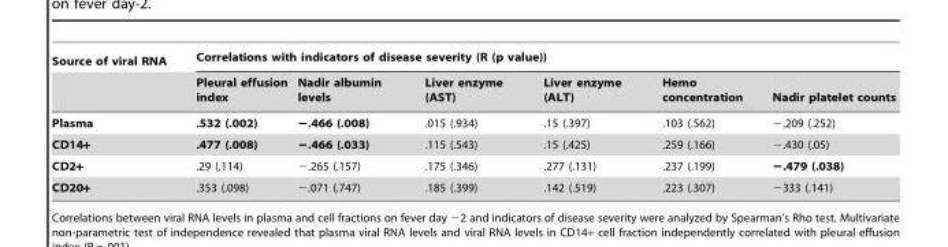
<table><thead><tr><td rowspan="2">Source of viral RNA</td><td colspan="6">Correlations with indicators of disease severity (R (p value))</td></tr><tr><td>Pleural effusion index</td><td>Nadir albumin levels</td><td>Liver enzyme (AST)</td><td>Liver enzyme (ALT)</td><td>Hemo concentration</td><td>Nadir platelet counts</td></tr></thead><tbody><tr><td>Plasma</td><td>.532 (.002)</td><td>−.466 (.008)</td><td>.015 (.934)</td><td>.15 (.397)</td><td>.103 (.562)</td><td>−.209 (.252)</td></tr><tr><td>CD14+</td><td>.477 (.008)</td><td>−.466 (.033)</td><td>.115 (.543)</td><td>.15 (.425)</td><td>.259 (.166)</td><td>−.430 (.05)</td></tr><tr><td>CD2+</td><td>.29 (.114)</td><td>−.265 (.157)</td><td>.175 (.346)</td><td>.277 (.131)</td><td>.237 (.199)</td><td>−.479 (.038)</td></tr><tr><td>CD20+</td><td>.353 (.098)</td><td>−.071 (.747)</td><td>.185 (.399)</td><td>.142 (.519)</td><td>.223 (.307)</td><td>−333 (.141)</td></tr></tbody></table>